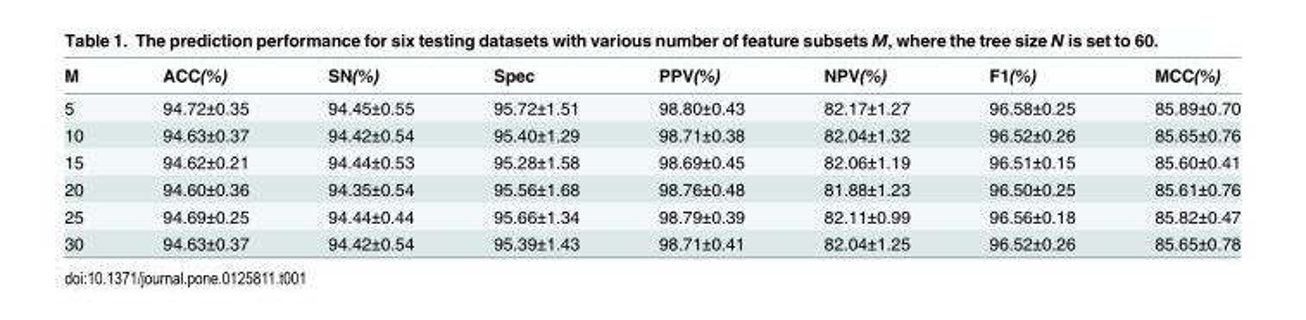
<table><thead><tr><td>M</td><td>ACC(%)</td><td>SN(%)</td><td>Spec</td><td>PPV(%)</td><td>NPV(%)</td><td>F1(%)</td><td>MCC(%)</td></tr></thead><tbody><tr><td>5</td><td>94.72±0.35</td><td>94.45±0.55</td><td>95.72±1.51</td><td>98.80±0.43</td><td>82.17±1.27</td><td>96.58±0.25</td><td>85.89±0.70</td></tr><tr><td>10</td><td>94.63±0.37</td><td>94.42±0.54</td><td>95.40±1.29</td><td>98.71±0.38</td><td>82.04±1.32</td><td>96.52±0.26</td><td>85.65±0.76</td></tr><tr><td>15</td><td>94.62±0.21</td><td>94.44±0.53</td><td>95.28±1.58</td><td>98.69±0.45</td><td>82.06±1.19</td><td>96.51±0.15</td><td>85.60±0.41</td></tr><tr><td>20</td><td>94.60±0.36</td><td>94.35±0.54</td><td>95.56±1.68</td><td>98.76±0.48</td><td>81.88±1.23</td><td>96.50±0.25</td><td>85.61±0.76</td></tr><tr><td>25</td><td>94.69±0.25</td><td>94.44±0.44</td><td>95.66±1.34</td><td>98.79±0.39</td><td>82.11±0.99</td><td>96.56±0.18</td><td>85.82±0.47</td></tr><tr><td>30</td><td>94.63±0.37</td><td>94.42±0.54</td><td>95.39±1.43</td><td>98.71±0.41</td><td>82.04±1.25</td><td>96.52±0.26</td><td>85.65±0.78</td></tr></tbody></table>